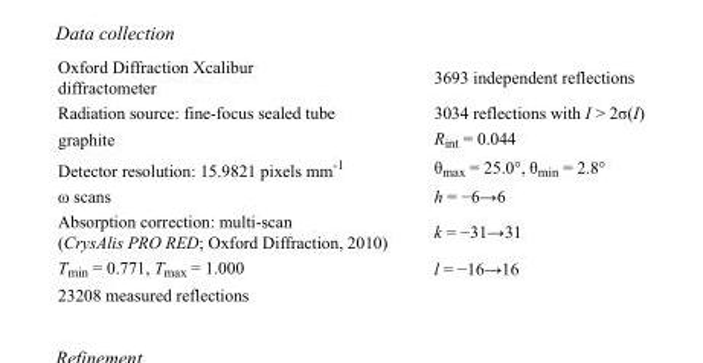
<table><tbody><tr><td>Oxford Diffraction Xcalibur diffractometer</td><td>3693 independent reflections</td></tr><tr><td>Radiation source: fine-focus sealed tube</td><td>3034 reflections with I &gt; 2σ(I)</td></tr><tr><td>graphite</td><td>R<sub>int</sub> = 0.044</td></tr><tr><td>Detector resolution: 15.9821 pixels mm<sup>-1</sup></td><td>θ<sub>max</sub> = 25.0°, θ<sub>min</sub> = 2.8°</td></tr><tr><td>ω scans</td><td>h = −6→6</td></tr><tr><td>Absorption correction: multi-scan (CrysAlis PRO RED; Oxford Diffraction, 2010)</td><td>k = −31→31</td></tr><tr><td>T<sub>min</sub> = 0.771, T<sub>max</sub> = 1.000</td><td>l = −16→16</td></tr><tr><td>23208 measured reflections</td><td></td></tr></tbody></table>